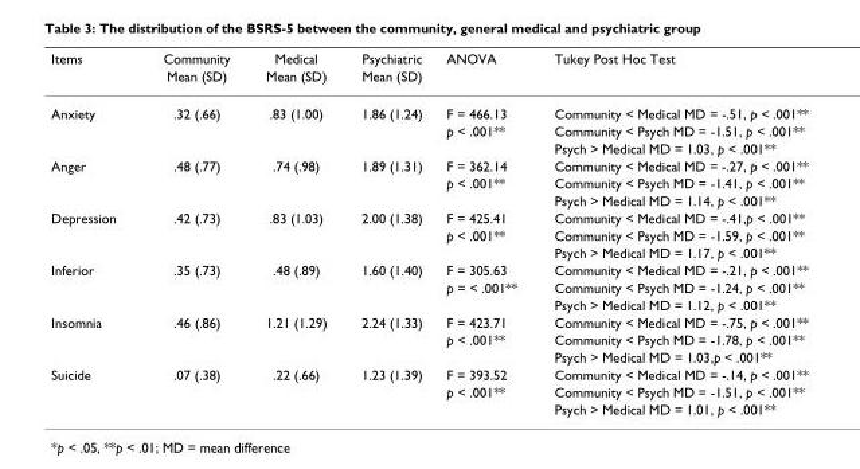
<table><thead><tr><td rowspan="2">Items</td><td rowspan="2">Community Mean (SD)</td><td rowspan="2">Medical Mean (SD)</td><td rowspan="2">Psychiatric Mean (SD)</td><td rowspan="2">ANOVA</td><td rowspan="2">Tukey Post Hoc Test</td></tr><tr></tr></thead><tbody><tr><td rowspan="3">Anxiety</td><td>.32 (.66)</td><td>.83 (1.00)</td><td>1.86 (1.24)</td><td>F = 466.13</td><td>Community &lt; Medical MD = -.51, p &lt; .001**</td></tr><tr><td></td><td></td><td></td><td>p &lt; .001**</td><td>Community &lt; Psych MD = -1.51, p &lt; .001**</td></tr><tr><td></td><td></td><td></td><td></td><td>Psych &gt; Medical MD = 1.03, p &lt; .001**</td></tr><tr><td rowspan="3">Anger</td><td>.48 (.77)</td><td>.74 (.98)</td><td>1.89 (1.31)</td><td>F = 362.14</td><td>Community &lt; Medical MD = -.27, p &lt; .001**</td></tr><tr><td></td><td></td><td></td><td>p &lt; .001**</td><td>Community &lt; Psych MD = -1.41, p &lt; .001**</td></tr><tr><td></td><td></td><td></td><td></td><td>Psych &gt; Medical MD = 1.14, p &lt; .001**</td></tr><tr><td rowspan="3">Depression</td><td>.42 (.73)</td><td>.83 (1.03)</td><td>2.00 (1.38)</td><td>F = 425.41</td><td>Community &lt; Medical MD = -.41,p &lt; .001**</td></tr><tr><td></td><td></td><td></td><td>p &lt; .001**</td><td>Community &lt; Psych MD = -1.59, p &lt; .001**</td></tr><tr><td></td><td></td><td></td><td></td><td>Psych &gt; Medical MD = 1.17, p &lt; .001**</td></tr><tr><td rowspan="3">Inferior</td><td>.35 (.73)</td><td>.48 (.89)</td><td>1.60 (1.40)</td><td>F = 305.63</td><td>Community &lt; Medical MD = -.21, p &lt; .001**</td></tr><tr><td></td><td></td><td></td><td>p = &lt; .001**</td><td>Community &lt; Psych MD = -1.24, p &lt; .001**</td></tr><tr><td></td><td></td><td></td><td></td><td>Psych &gt; Medical MD = 1.12, p &lt; .001**</td></tr><tr><td rowspan="3">Insomnia</td><td>.46 (.86)</td><td>1.21 (1.29)</td><td>2.24 (1.33)</td><td>F = 423.71</td><td>Community &lt; Medical MD = -.75, p &lt; .001**</td></tr><tr><td></td><td></td><td></td><td>p &lt; .001**</td><td>Community &lt; Psych MD = -1.78, p &lt; .001**</td></tr><tr><td></td><td></td><td></td><td></td><td>Psych &gt; Medical MD = 1.03,p &lt; .001**</td></tr><tr><td rowspan="3">Suicide</td><td>.07 (.38)</td><td>.22 (.66)</td><td>1.23 (1.39)</td><td>F = 393.52</td><td>Community &lt; Medical MD = -.14, p &lt; .001**</td></tr><tr><td></td><td></td><td></td><td>p &lt; .001**</td><td>Community &lt; Psych MD = -1.51, p &lt; .001**</td></tr><tr><td></td><td></td><td></td><td></td><td>Psych &gt; Medical MD = 1.01, p &lt; .001**</td></tr></tbody></table>